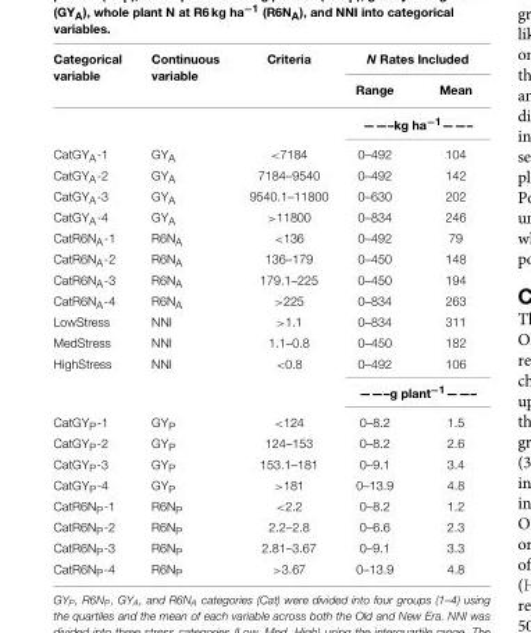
<table><thead><tr><td rowspan="2">Categorical variable</td><td rowspan="2">Continuous variable</td><td rowspan="2">Criteria</td><td colspan="2">N Rates Included</td></tr><tr><td>Range</td><td>Mean</td></tr></thead><tbody><tr><td colspan="3"></td><td colspan="2">——–kg ha<sup>−1</sup>——–</td></tr><tr><td>CatGY<sub>A</sub>-1</td><td>GY<sub>A</sub></td><td>&lt;7184</td><td>0–492</td><td>104</td></tr><tr><td>CatGY<sub>A</sub>-2</td><td>GY<sub>A</sub></td><td>7184–9540</td><td>0–492</td><td>142</td></tr><tr><td>CatGY<sub>A</sub>-3</td><td>GY<sub>A</sub></td><td>9540.1–11800</td><td>0–630</td><td>202</td></tr><tr><td>CatGY<sub>A</sub>-4</td><td>GY<sub>A</sub></td><td>&gt;11800</td><td>0–834</td><td>246</td></tr><tr><td>CatR6N<sub>A</sub>-1</td><td>R6N<sub>A</sub></td><td>&lt;136</td><td>0–492</td><td>79</td></tr><tr><td>CatR6N<sub>A</sub>-2</td><td>R6N<sub>A</sub></td><td>136–179</td><td>0–450</td><td>148</td></tr><tr><td>CatR6N<sub>A</sub>-3</td><td>R6N<sub>A</sub></td><td>179.1–225</td><td>0–450</td><td>194</td></tr><tr><td>CatR6N<sub>A</sub>-4</td><td>R6N<sub>A</sub></td><td>&gt;225</td><td>0–834</td><td>263</td></tr><tr><td>LowStress</td><td>NNI</td><td>&gt;1.1</td><td>0–834</td><td>311</td></tr><tr><td>MedStress</td><td>NNI</td><td>1.1–0.8</td><td>0–450</td><td>182</td></tr><tr><td>HighStress</td><td>NNI</td><td>&lt;0.8</td><td>0–492</td><td>106</td></tr><tr><td colspan="3"></td><td colspan="2">——–g plant<sup>−1</sup>——–</td></tr><tr><td>CatGY<sub>P</sub>-1</td><td>GY<sub>P</sub></td><td>&lt;124</td><td>0–8.2</td><td>1.5</td></tr><tr><td>CatGY<sub>P</sub>-2</td><td>GY<sub>P</sub></td><td>124–153</td><td>0–8.2</td><td>2.6</td></tr><tr><td>CatGY<sub>P</sub>-3</td><td>GY<sub>P</sub></td><td>153.1–181</td><td>0–9.1</td><td>3.4</td></tr><tr><td>CatGY<sub>P</sub>-4</td><td>GY<sub>P</sub></td><td>&gt;181</td><td>0–13.9</td><td>4.8</td></tr><tr><td>CatR6N<sub>P</sub>-1</td><td>R6N<sub>P</sub></td><td>&lt;2.2</td><td>0–8.2</td><td>1.2</td></tr><tr><td>CatR6N<sub>P</sub>-2</td><td>R6N<sub>P</sub></td><td>2.2–2.8</td><td>0–6.6</td><td>2.3</td></tr><tr><td>CatR6N<sub>P</sub>-3</td><td>R6N<sub>P</sub></td><td>2.81–3.67</td><td>0–9.1</td><td>3.3</td></tr><tr><td>CatR6N<sub>P</sub>-4</td><td>R6N<sub>P</sub></td><td>&gt;3.67</td><td>0–13.9</td><td>4.8</td></tr></tbody></table>